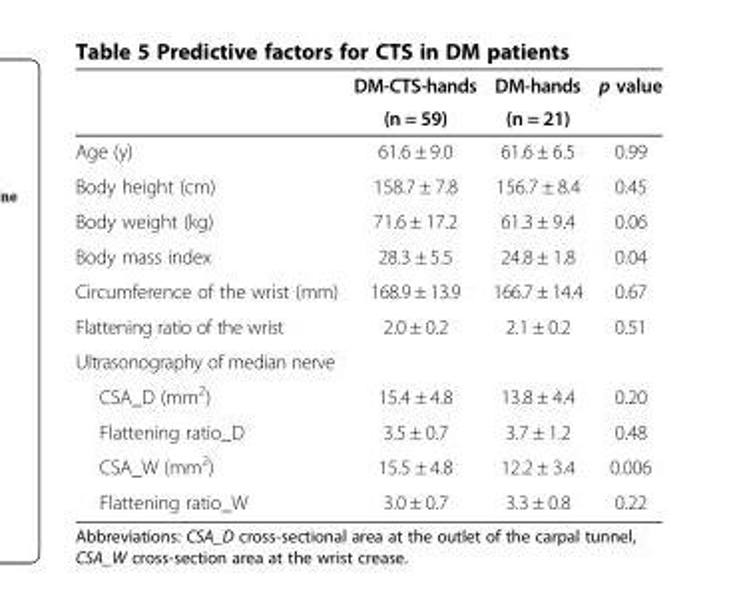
<table><thead><tr><td rowspan="2"></td><td rowspan="2">DM-CTS-hands (n = 59)</td><td rowspan="2">DM-hands (n = 21)</td><td rowspan="2">p value</td></tr><tr></tr></thead><tbody><tr><td>Age (y)</td><td>61.6 ± 9.0</td><td>61.6 ± 6.5</td><td>0.99</td></tr><tr><td>Body height (cm)</td><td>158.7 ± 7.8</td><td>156.7 ± 8.4</td><td>0.45</td></tr><tr><td>Body weight (kg)</td><td>71.6 ± 17.2</td><td>61.3 ± 9.4</td><td>0.06</td></tr><tr><td>Body mass index</td><td>28.3 ± 5.5</td><td>24.8 ± 1.8</td><td>0.04</td></tr><tr><td>Circumference of the wrist (mm)</td><td>168.9 ± 13.9</td><td>166.7 ± 14.4</td><td>0.67</td></tr><tr><td>Flattening ratio of the wrist</td><td>2.0 ± 0.2</td><td>2.1 ± 0.2</td><td>0.51</td></tr><tr><td colspan="4">Ultrasonography of median nerve</td></tr><tr><td>CSA_D (mm<sup>2</sup>)</td><td>15.4 ± 4.8</td><td>13.8 ± 4.4</td><td>0.20</td></tr><tr><td>Flattening ratio_D</td><td>3.5 ± 0.7</td><td>3.7 ± 1.2</td><td>0.48</td></tr><tr><td>CSA_W (mm<sup>2</sup>)</td><td>15.5 ± 4.8</td><td>12.2 ± 3.4</td><td>0.006</td></tr><tr><td>Flattening ratio_W</td><td>3.0 ± 0.7</td><td>3.3 ± 0.8</td><td>0.22</td></tr></tbody></table>